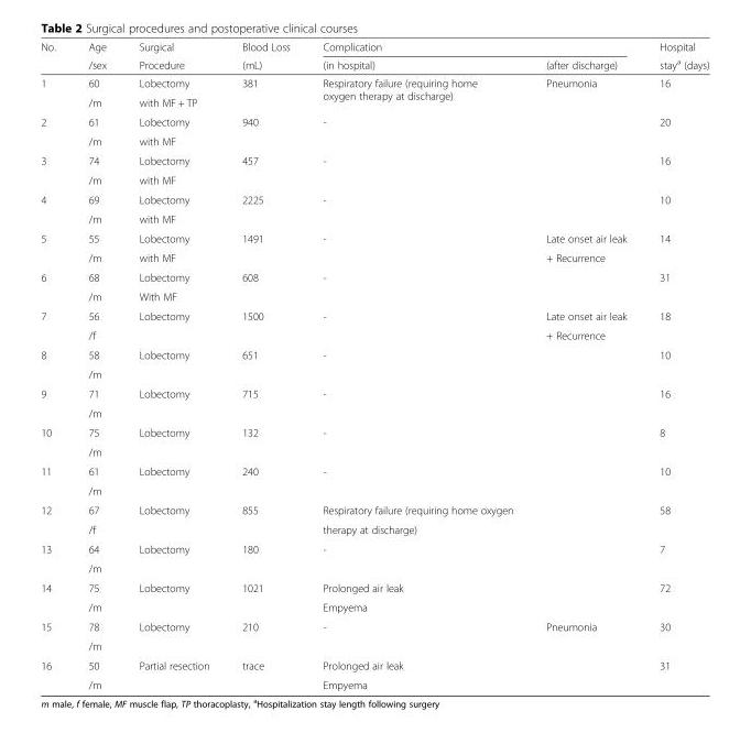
<table><thead><tr><td rowspan="2">No.</td><td rowspan="2">Age /sex</td><td rowspan="2">Surgical Procedure</td><td rowspan="2">Blood Loss (mL)</td><td colspan="2">Complication</td><td rowspan="2">Hospital stay<sup>a</sup> (days)</td></tr><tr><td>(in hospital)</td><td>(after discharge)</td></tr></thead><tbody><tr><td rowspan="2">1</td><td>60</td><td>Lobectomy</td><td rowspan="2">381</td><td rowspan="2">Respiratory failure (requiring home oxygen therapy at discharge)</td><td rowspan="2">Pneumonia</td><td rowspan="2">16</td></tr><tr><td>/m</td><td>with MF + TP</td></tr><tr><td rowspan="2">2</td><td>61</td><td>Lobectomy</td><td>940</td><td>-</td><td></td><td>20</td></tr><tr><td>/m</td><td>with MF</td><td></td><td></td><td></td><td></td></tr><tr><td rowspan="2">3</td><td>74</td><td>Lobectomy</td><td>457</td><td>-</td><td></td><td>16</td></tr><tr><td>/m</td><td>with MF</td><td></td><td></td><td></td><td></td></tr><tr><td rowspan="2">4</td><td>69</td><td>Lobectomy</td><td>2225</td><td>-</td><td></td><td>10</td></tr><tr><td>/m</td><td>with MF</td><td></td><td></td><td></td><td></td></tr><tr><td rowspan="2">5</td><td>55</td><td>Lobectomy</td><td>1491</td><td>-</td><td>Late onset air leak</td><td>14</td></tr><tr><td>/m</td><td>with MF</td><td></td><td></td><td>+ Recurrence</td><td></td></tr><tr><td rowspan="2">6</td><td>68</td><td>Lobectomy</td><td>608</td><td>-</td><td></td><td>31</td></tr><tr><td>/m</td><td>With MF</td><td></td><td></td><td></td><td></td></tr><tr><td rowspan="2">7</td><td>56</td><td>Lobectomy</td><td>1500</td><td>-</td><td>Late onset air leak</td><td>18</td></tr><tr><td>/f</td><td></td><td></td><td></td><td>+ Recurrence</td><td></td></tr><tr><td rowspan="2">8</td><td>58</td><td>Lobectomy</td><td>651</td><td>-</td><td></td><td>10</td></tr><tr><td>/m</td><td></td><td></td><td></td><td></td><td></td></tr><tr><td rowspan="2">9</td><td>71</td><td>Lobectomy</td><td>715</td><td>-</td><td></td><td>16</td></tr><tr><td>/m</td><td></td><td></td><td></td><td></td><td></td></tr><tr><td rowspan="2">10</td><td>75</td><td>Lobectomy</td><td>132</td><td>-</td><td></td><td>8</td></tr><tr><td>/m</td><td></td><td></td><td></td><td></td><td></td></tr><tr><td rowspan="2">11</td><td>61</td><td>Lobectomy</td><td>240</td><td>-</td><td></td><td>10</td></tr><tr><td>/m</td><td></td><td></td><td></td><td></td><td></td></tr><tr><td rowspan="2">12</td><td>67</td><td>Lobectomy</td><td>855</td><td>Respiratory failure (requiring home oxygen</td><td></td><td>58</td></tr><tr><td>/f</td><td></td><td></td><td>therapy at discharge)</td><td></td><td></td></tr><tr><td rowspan="2">13</td><td>64</td><td>Lobectomy</td><td>180</td><td>-</td><td></td><td>7</td></tr><tr><td>/m</td><td></td><td></td><td></td><td></td><td></td></tr><tr><td rowspan="2">14</td><td>75</td><td>Lobectomy</td><td>1021</td><td>Prolonged air leak</td><td></td><td>72</td></tr><tr><td>/m</td><td></td><td></td><td>Empyema</td><td></td><td></td></tr><tr><td rowspan="2">15</td><td>78</td><td>Lobectomy</td><td>210</td><td>-</td><td>Pneumonia</td><td>30</td></tr><tr><td>/m</td><td></td><td></td><td></td><td></td><td></td></tr><tr><td rowspan="2">16</td><td>50</td><td>Partial resection</td><td>trace</td><td>Prolonged air leak</td><td></td><td>31</td></tr><tr><td>/m</td><td></td><td></td><td>Empyema</td><td></td><td></td></tr></tbody></table>